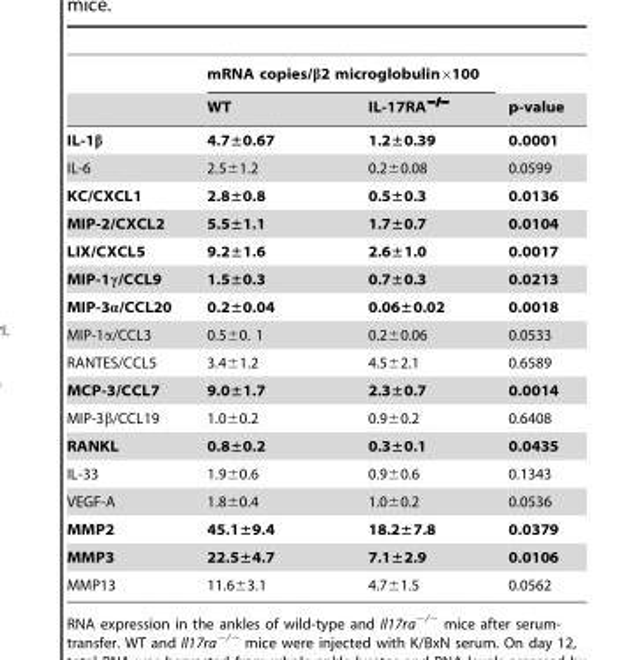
<table><thead><tr><td rowspan="2"></td><td colspan="2">mRNA copies/β2 microglobulin×100</td><td rowspan="2">p-value</td></tr><tr><td>WT</td><td>IL-17RA<sup>−/−</sup></td></tr></thead><tbody><tr><td>IL-1β</td><td>4.7±0.67</td><td>1.2±0.39</td><td>0.0001</td></tr><tr><td>IL-6</td><td>2.5±1.2</td><td>0.2±0.08</td><td>0.0599</td></tr><tr><td>KC/CXCL1</td><td>2.8±0.8</td><td>0.5±0.3</td><td>0.0136</td></tr><tr><td>MIP-2/CXCL2</td><td>5.5±1.1</td><td>1.7±0.7</td><td>0.0104</td></tr><tr><td>LIX/CXCL5</td><td>9.2±1.6</td><td>2.6±1.0</td><td>0.0017</td></tr><tr><td>MIP-1γ/CCL9</td><td>1.5±0.3</td><td>0.7±0.3</td><td>0.0213</td></tr><tr><td>MIP-3α/CCL20</td><td>0.2±0.04</td><td>0.06±0.02</td><td>0.0018</td></tr><tr><td>MIP-1α/CCL3</td><td>0.5±0. 1</td><td>0.2±0.06</td><td>0.0533</td></tr><tr><td>RANTES/CCL5</td><td>3.4±1.2</td><td>4.5±2.1</td><td>0.6589</td></tr><tr><td>MCP-3/CCL7</td><td>9.0±1.7</td><td>2.3±0.7</td><td>0.0014</td></tr><tr><td>MIP-3β/CCL19</td><td>1.0±0.2</td><td>0.9±0.2</td><td>0.6408</td></tr><tr><td>RANKL</td><td>0.8±0.2</td><td>0.3±0.1</td><td>0.0435</td></tr><tr><td>IL-33</td><td>1.9±0.6</td><td>0.9±0.6</td><td>0.1343</td></tr><tr><td>VEGF-A</td><td>1.8±0.4</td><td>1.0±0.2</td><td>0.0536</td></tr><tr><td>MMP2</td><td>45.1±9.4</td><td>18.2±7.8</td><td>0.0379</td></tr><tr><td>MMP3</td><td>22.5±4.7</td><td>7.1±2.9</td><td>0.0106</td></tr><tr><td>MMP13</td><td>11.6±3.1</td><td>4.7±1.5</td><td>0.0562</td></tr></tbody></table>